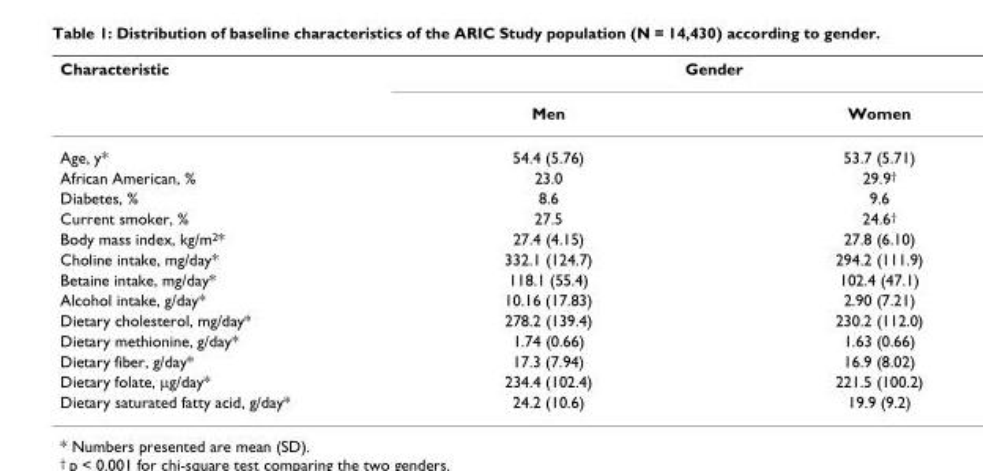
<table><thead><tr><td rowspan="2">Characteristic</td><td colspan="2">Gender</td></tr><tr><td>Men</td><td>Women</td></tr></thead><tbody><tr><td>Age, y*</td><td>54.4 (5.76)</td><td>53.7 (5.71)</td></tr><tr><td>African American, %</td><td>23.0</td><td>29.9<sup>†</sup></td></tr><tr><td>Diabetes, %</td><td>8.6</td><td>9.6</td></tr><tr><td>Current smoker, %</td><td>27.5</td><td>24.6<sup>†</sup></td></tr><tr><td>Body mass index, kg/m<sup>2</sup>*</td><td>27.4 (4.15)</td><td>27.8 (6.10)</td></tr><tr><td>Choline intake, mg/day*</td><td>332.1 (124.7)</td><td>294.2 (111.9)</td></tr><tr><td>Betaine intake, mg/day*</td><td>118.1 (55.4)</td><td>102.4 (47.1)</td></tr><tr><td>Alcohol intake, g/day*</td><td>10.16 (17.83)</td><td>2.90 (7.21)</td></tr><tr><td>Dietary cholesterol, mg/day*</td><td>278.2 (139.4)</td><td>230.2 (112.0)</td></tr><tr><td>Dietary methionine, g/day*</td><td>1.74 (0.66)</td><td>1.63 (0.66)</td></tr><tr><td>Dietary fiber, g/day*</td><td>17.3 (7.94)</td><td>16.9 (8.02)</td></tr><tr><td>Dietary folate, μg/day*</td><td>234.4 (102.4)</td><td>221.5 (100.2)</td></tr><tr><td>Dietary saturated fatty acid, g/day*</td><td>24.2 (10.6)</td><td>19.9 (9.2)</td></tr></tbody></table>